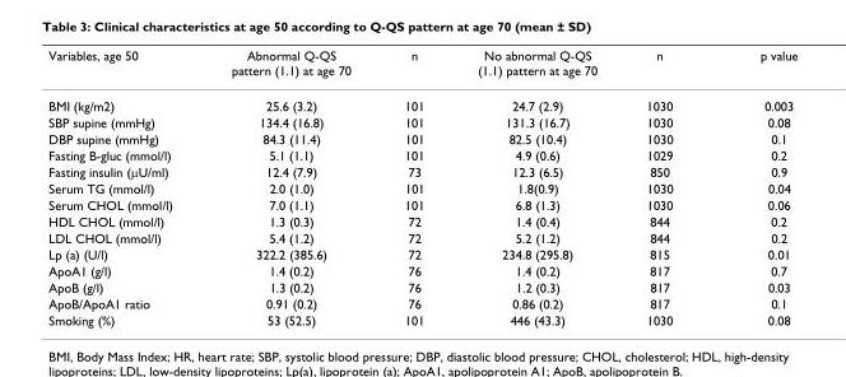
<table><thead><tr><td>Variables, age 50</td><td>Abnormal Q-QS pattern (1.1) at age 70</td><td>n</td><td>No abnormal Q-QS (1.1) pattern at age 70</td><td>n</td><td>p value</td></tr></thead><tbody><tr><td>BMI (kg/m2)</td><td>25.6 (3.2)</td><td>101</td><td>24.7 (2.9)</td><td>1030</td><td>0.003</td></tr><tr><td>SBP supine (mmHg)</td><td>134.4 (16.8)</td><td>101</td><td>131.3 (16.7)</td><td>1030</td><td>0.08</td></tr><tr><td>DBP supine (mmHg)</td><td>84.3 (11.4)</td><td>101</td><td>82.5 (10.4)</td><td>1030</td><td>0.1</td></tr><tr><td>Fasting B-gluc (mmol/l)</td><td>5.1 (1.1)</td><td>101</td><td>4.9 (0.6)</td><td>1029</td><td>0.2</td></tr><tr><td>Fasting insulin (μU/ml)</td><td>12.4 (7.9)</td><td>73</td><td>12.3 (6.5)</td><td>850</td><td>0.9</td></tr><tr><td>Serum TG (mmol/l)</td><td>2.0 (1.0)</td><td>101</td><td>1.8(0.9)</td><td>1030</td><td>0.04</td></tr><tr><td>Serum CHOL (mmol/l)</td><td>7.0 (1.1)</td><td>101</td><td>6.8 (1.3)</td><td>1030</td><td>0.06</td></tr><tr><td>HDL CHOL (mmol/l)</td><td>1.3 (0.3)</td><td>72</td><td>1.4 (0.4)</td><td>844</td><td>0.2</td></tr><tr><td>LDL CHOL (mmol/l)</td><td>5.4 (1.2)</td><td>72</td><td>5.2 (1.2)</td><td>844</td><td>0.2</td></tr><tr><td>Lp (a) (U/l)</td><td>322.2 (385.6)</td><td>72</td><td>234.8 (295.8)</td><td>815</td><td>0.01</td></tr><tr><td>ApoA1 (g/l)</td><td>1.4 (0.2)</td><td>76</td><td>1.4 (0.2)</td><td>817</td><td>0.7</td></tr><tr><td>ApoB (g/l)</td><td>1.3 (0.2)</td><td>76</td><td>1.2 (0.3)</td><td>817</td><td>0.03</td></tr><tr><td>ApoB/ApoA1 ratio</td><td>0.91 (0.2)</td><td>76</td><td>0.86 (0.2)</td><td>817</td><td>0.1</td></tr><tr><td>Smoking (%)</td><td>53 (52.5)</td><td>101</td><td>446 (43.3)</td><td>1030</td><td>0.08</td></tr></tbody></table>